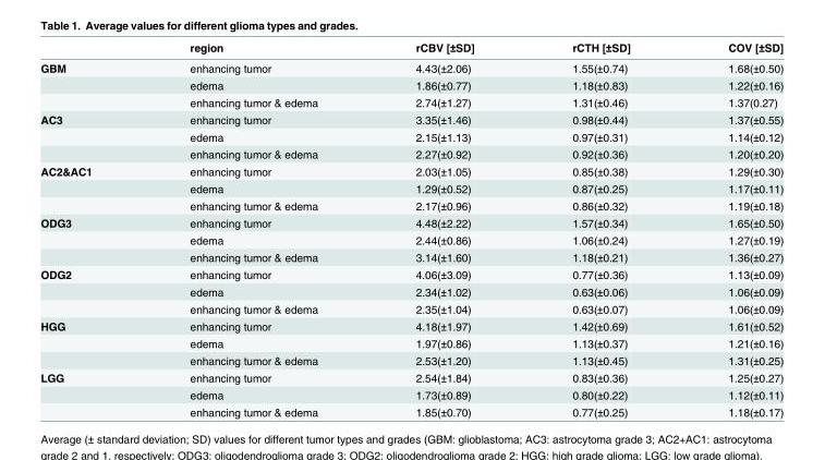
<table><thead><tr><td></td><td>region</td><td>rCBV [±SD]</td><td>rCTH [±SD]</td><td>COV [±SD]</td></tr></thead><tbody><tr><td rowspan="3">GBM</td><td>enhancing tumor</td><td>4.43(±2.06)</td><td>1.55(±0.74)</td><td>1.68(±0.50)</td></tr><tr><td>edema</td><td>1.86(±0.77)</td><td>1.18(±0.83)</td><td>1.22(±0.16)</td></tr><tr><td>enhancing tumor &amp; edema</td><td>2.74(±1.27)</td><td>1.31(±0.46)</td><td>1.37(0.27)</td></tr><tr><td rowspan="3">AC3</td><td>enhancing tumor</td><td>3.35(±1.46)</td><td>0.98(±0.44)</td><td>1.37(±0.55)</td></tr><tr><td>edema</td><td>2.15(±1.13)</td><td>0.97(±0.31)</td><td>1.14(±0.12)</td></tr><tr><td>enhancing tumor &amp; edema</td><td>2.27(±0.92)</td><td>0.92(±0.36)</td><td>1.20(±0.20)</td></tr><tr><td rowspan="3">AC2&amp;AC1</td><td>enhancing tumor</td><td>2.03(±1.05)</td><td>0.85(±0.38)</td><td>1.29(±0.30)</td></tr><tr><td>edema</td><td>1.29(±0.52)</td><td>0.87(±0.25)</td><td>1.17(±0.11)</td></tr><tr><td>enhancing tumor &amp; edema</td><td>2.17(±0.96)</td><td>0.86(±0.32)</td><td>1.19(±0.18)</td></tr><tr><td rowspan="3">ODG3</td><td>enhancing tumor</td><td>4.48(±2.22)</td><td>1.57(±0.34)</td><td>1.65(±0.50)</td></tr><tr><td>edema</td><td>2.44(±0.86)</td><td>1.06(±0.24)</td><td>1.27(±0.19)</td></tr><tr><td>enhancing tumor &amp; edema</td><td>3.14(±1.60)</td><td>1.18(±0.21)</td><td>1.36(±0.27)</td></tr><tr><td rowspan="3">ODG2</td><td>enhancing tumor</td><td>4.06(±3.09)</td><td>0.77(±0.36)</td><td>1.13(±0.09)</td></tr><tr><td>edema</td><td>2.34(±1.02)</td><td>0.63(±0.06)</td><td>1.06(±0.09)</td></tr><tr><td>enhancing tumor &amp; edema</td><td>2.35(±1.04)</td><td>0.63(±0.07)</td><td>1.06(±0.09)</td></tr><tr><td rowspan="3">HGG</td><td>enhancing tumor</td><td>4.18(±1.97)</td><td>1.42(±0.69)</td><td>1.61(±0.52)</td></tr><tr><td>edema</td><td>1.97(±0.86)</td><td>1.13(±0.37)</td><td>1.21(±0.16)</td></tr><tr><td>enhancing tumor &amp; edema</td><td>2.53(±1.20)</td><td>1.13(±0.45)</td><td>1.31(±0.25)</td></tr><tr><td rowspan="3">LGG</td><td>enhancing tumor</td><td>2.54(±1.84)</td><td>0.83(±0.36)</td><td>1.25(±0.27)</td></tr><tr><td>edema</td><td>1.73(±0.89)</td><td>0.80(±0.22)</td><td>1.12(±0.11)</td></tr><tr><td>enhancing tumor &amp; edema</td><td>1.85(±0.70)</td><td>0.77(±0.25)</td><td>1.18(±0.17)</td></tr></tbody></table>